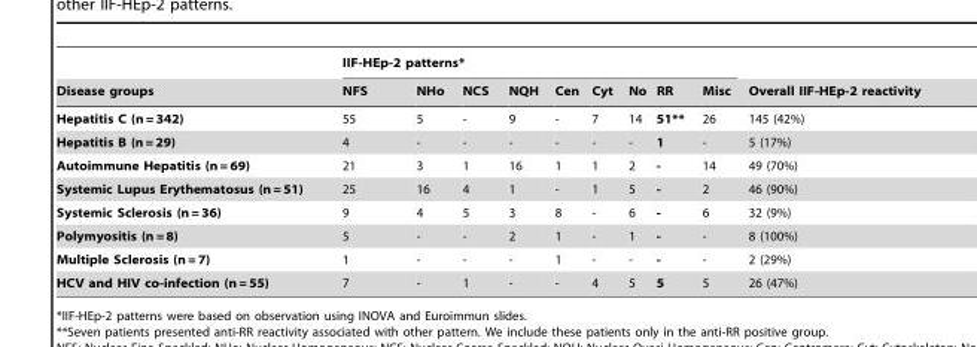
<table><thead><tr><td rowspan="2">Disease groups</td><td colspan="9">IIF-HEp-2 patterns*</td><td rowspan="2">Overall IIF-HEp-2 reactivity</td></tr><tr><td>NFS</td><td>NHo</td><td>NCS</td><td>NQH</td><td>Cen</td><td>Cyt</td><td>No</td><td>RR</td><td>Misc</td></tr></thead><tbody><tr><td>Hepatitis C (n = 342)</td><td>55</td><td>5</td><td>-</td><td>9</td><td>-</td><td>7</td><td>14</td><td>51**</td><td>26</td><td>145 (42%)</td></tr><tr><td>Hepatitis B (n = 29)</td><td>4</td><td>-</td><td>-</td><td>-</td><td>-</td><td>-</td><td>-</td><td>1</td><td>-</td><td>5 (17%)</td></tr><tr><td>Autoimmune Hepatitis (n = 69)</td><td>21</td><td>3</td><td>1</td><td>16</td><td>1</td><td>1</td><td>2</td><td>-</td><td>14</td><td>49 (70%)</td></tr><tr><td>Systemic Lupus Erythematosus (n = 51)</td><td>25</td><td>16</td><td>4</td><td>1</td><td>-</td><td>1</td><td>5</td><td>-</td><td>2</td><td>46 (90%)</td></tr><tr><td>Systemic Sclerosis (n = 36)</td><td>9</td><td>4</td><td>5</td><td>3</td><td>8</td><td>-</td><td>6</td><td>-</td><td>6</td><td>32 (9%)</td></tr><tr><td>Polymyositis (n = 8)</td><td>5</td><td>-</td><td>-</td><td>2</td><td>1</td><td>-</td><td>1</td><td>-</td><td>-</td><td>8 (100%)</td></tr><tr><td>Multiple Sclerosis (n = 7)</td><td>1</td><td>-</td><td>-</td><td>-</td><td>1</td><td>-</td><td>-</td><td>-</td><td>-</td><td>2 (29%)</td></tr><tr><td>HCV and HIV co-infection (n = 55)</td><td>7</td><td>-</td><td>1</td><td>-</td><td>-</td><td>4</td><td>5</td><td>5</td><td>5</td><td>26 (47%)</td></tr></tbody></table>